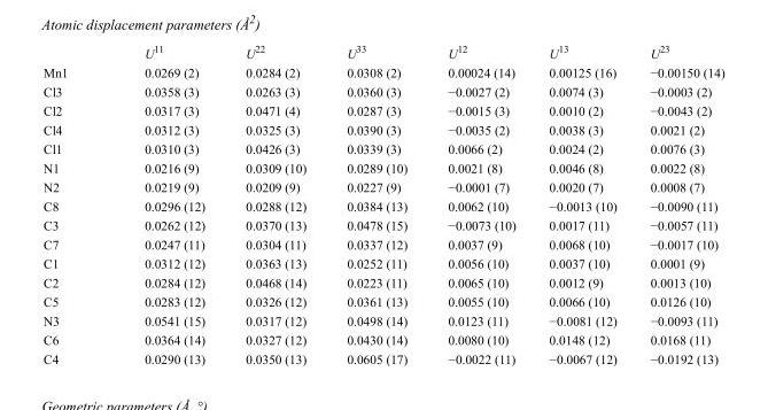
<table><thead><tr><td></td><td>U<sup>11</sup></td><td>U<sup>22</sup></td><td>U<sup>33</sup></td><td>U<sup>12</sup></td><td>U<sup>13</sup></td><td>U<sup>23</sup></td></tr></thead><tbody><tr><td>Mn1</td><td>0.0269 (2)</td><td>0.0284 (2)</td><td>0.0308 (2)</td><td>0.00024 (14)</td><td>0.00125 (16)</td><td>−0.00150 (14)</td></tr><tr><td>Cl3</td><td>0.0358 (3)</td><td>0.0263 (3)</td><td>0.0360 (3)</td><td>−0.0027 (2)</td><td>0.0074 (3)</td><td>−0.0003 (2)</td></tr><tr><td>Cl2</td><td>0.0317 (3)</td><td>0.0471 (4)</td><td>0.0287 (3)</td><td>−0.0015 (3)</td><td>0.0010 (2)</td><td>−0.0043 (2)</td></tr><tr><td>Cl4</td><td>0.0312 (3)</td><td>0.0325 (3)</td><td>0.0390 (3)</td><td>−0.0035 (2)</td><td>0.0038 (3)</td><td>0.0021 (2)</td></tr><tr><td>Cl1</td><td>0.0310 (3)</td><td>0.0426 (3)</td><td>0.0339 (3)</td><td>0.0066 (2)</td><td>0.0024 (2)</td><td>0.0076 (3)</td></tr><tr><td>N1</td><td>0.0216 (9)</td><td>0.0309 (10)</td><td>0.0289 (10)</td><td>0.0021 (8)</td><td>0.0046 (8)</td><td>0.0022 (8)</td></tr><tr><td>N2</td><td>0.0219 (9)</td><td>0.0209 (9)</td><td>0.0227 (9)</td><td>−0.0001 (7)</td><td>0.0020 (7)</td><td>0.0008 (7)</td></tr><tr><td>C8</td><td>0.0296 (12)</td><td>0.0288 (12)</td><td>0.0384 (13)</td><td>0.0062 (10)</td><td>−0.0013 (10)</td><td>−0.0090 (11)</td></tr><tr><td>C3</td><td>0.0262 (12)</td><td>0.0370 (13)</td><td>0.0478 (15)</td><td>−0.0073 (10)</td><td>0.0017 (11)</td><td>−0.0057 (11)</td></tr><tr><td>C7</td><td>0.0247 (11)</td><td>0.0304 (11)</td><td>0.0337 (12)</td><td>0.0037 (9)</td><td>0.0068 (10)</td><td>−0.0017 (10)</td></tr><tr><td>C1</td><td>0.0312 (12)</td><td>0.0363 (13)</td><td>0.0252 (11)</td><td>0.0056 (10)</td><td>0.0037 (10)</td><td>0.0001 (9)</td></tr><tr><td>C2</td><td>0.0284 (12)</td><td>0.0468 (14)</td><td>0.0223 (11)</td><td>0.0065 (10)</td><td>0.0012 (9)</td><td>0.0013 (10)</td></tr><tr><td>C5</td><td>0.0283 (12)</td><td>0.0326 (12)</td><td>0.0361 (13)</td><td>0.0055 (10)</td><td>0.0066 (10)</td><td>0.0126 (10)</td></tr><tr><td>N3</td><td>0.0541 (15)</td><td>0.0317 (12)</td><td>0.0498 (14)</td><td>0.0123 (11)</td><td>−0.0081 (12)</td><td>−0.0093 (11)</td></tr><tr><td>C6</td><td>0.0364 (14)</td><td>0.0327 (12)</td><td>0.0430 (14)</td><td>0.0080 (10)</td><td>0.0148 (12)</td><td>0.0168 (11)</td></tr><tr><td>C4</td><td>0.0290 (13)</td><td>0.0350 (13)</td><td>0.0605 (17)</td><td>−0.0022 (11)</td><td>−0.0067 (12)</td><td>−0.0192 (13)</td></tr></tbody></table>